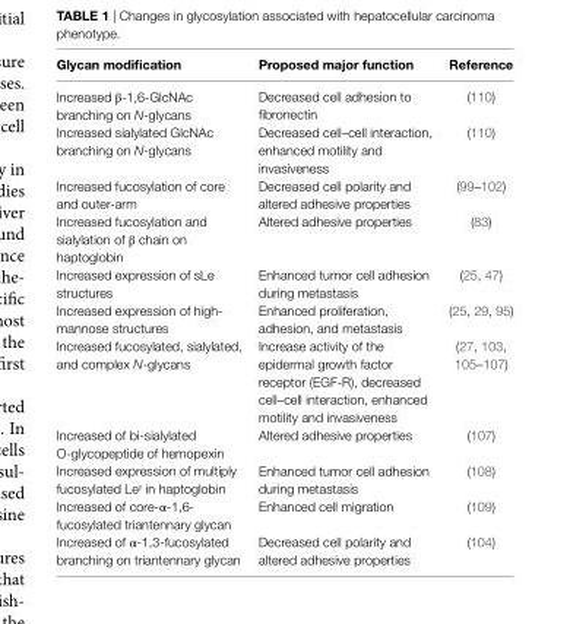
<table><thead><tr><td>Glycan modification</td><td>Proposed major function</td><td>Reference</td></tr></thead><tbody><tr><td>Increased β-1,6-GlcNAc branching on N-glycans</td><td>Decreased cell adhesion to fibronectin</td><td>(110)</td></tr><tr><td>Increased sialylated GlcNAc branching on N-glycans</td><td>Decreased cell–cell interaction, enhanced motility and invasiveness</td><td>(110)</td></tr><tr><td>Increased fucosylation of core and outer-arm</td><td>Decreased cell polarity and altered adhesive properties</td><td>(99–102)</td></tr><tr><td>Increased fucosylation and sialylation of β chain on haptoglobin</td><td>Altered adhesive properties</td><td>(83)</td></tr><tr><td>Increased expression of sLe structures</td><td>Enhanced tumor cell adhesion during metastasis</td><td>(25, 47)</td></tr><tr><td>Increased expression of high- mannose structures</td><td>Enhanced proliferation, adhesion, and metastasis</td><td>(25, 29, 95)</td></tr><tr><td>Increased fucosylated, sialylated, and complex N-glycans</td><td>Increase activity of the epidermal growth factor receptor (EGF-R), decreased cell–cell interaction, enhanced motility and invasiveness</td><td>(27, 103, 105–107)</td></tr><tr><td>Increased of bi-sialylated O-glycopeptide of hemopexin</td><td>Altered adhesive properties</td><td>(107)</td></tr><tr><td>Increased expression of multiply fucosylated Le<sup>y</sup> in haptoglobin</td><td>Enhanced tumor cell adhesion during metastasis</td><td>(108)</td></tr><tr><td>Increased of core-α-1,6- fucosylated triantennary glycan</td><td>Enhanced cell migration</td><td>(109)</td></tr><tr><td>Increased of α-1,3-fucosylated branching on triantennary glycan</td><td>Decreased cell polarity and altered adhesive properties</td><td>(104)</td></tr></tbody></table>